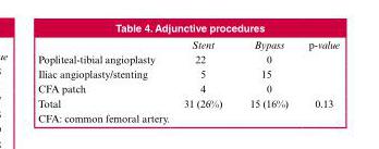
<table><thead><tr><td></td><td>Stent</td><td>Bypass</td><td>p-value</td></tr></thead><tbody><tr><td>Popliteal-tibial angioplasty</td><td>22</td><td>0</td><td></td></tr><tr><td>Iliac angioplasty/stenting</td><td>5</td><td>15</td><td></td></tr><tr><td>CFA patch</td><td>4</td><td>0</td><td></td></tr><tr><td>Total</td><td>31 (26%)</td><td>15 (16%)</td><td>0.13</td></tr></tbody></table>